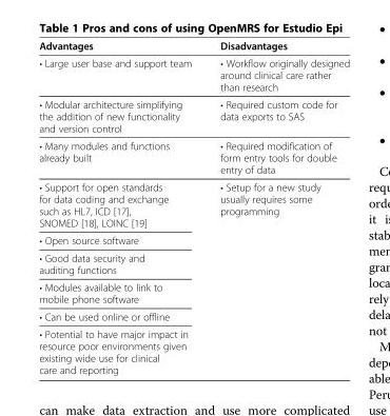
<table><thead><tr><td>Advantages</td><td>Disadvantages</td></tr></thead><tbody><tr><td>• Large user base and support team</td><td>• Workflow originally designed around clinical care rather than research</td></tr><tr><td>• Modular architecture simplifying the addition of new functionality and version control</td><td>• Required custom code for data exports to SAS</td></tr><tr><td>• Many modules and functions already built</td><td>• Required modification of form entry tools for double entry of data</td></tr><tr><td>• Support for open standards for data coding and exchange such as HL7, ICD [17], SNOMED [18], LOINC [19]</td><td rowspan="6">• Setup for a new study usually requires some programming</td></tr><tr><td>• Open source software</td></tr><tr><td>• Good data security and auditing functions</td></tr><tr><td>• Modules available to link to mobile phone software</td></tr><tr><td>• Can be used online or offline</td></tr><tr><td>• Potential to have major impact in resource poor environments given existing wide use for clinical care and reporting</td></tr></tbody></table>